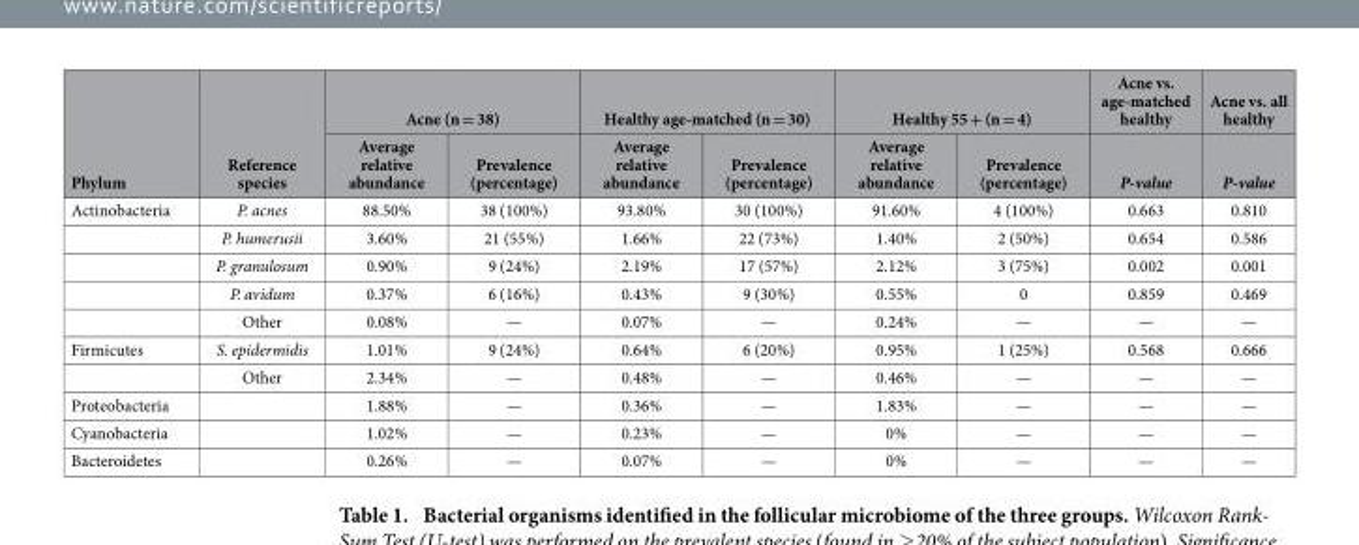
<table><thead><tr><td rowspan="2">Phylum</td><td rowspan="2">Reference species</td><td colspan="2">Acne (n = 38)</td><td colspan="2">Healthy age-matched (n = 30)</td><td colspan="2">Healthy 55 + (n = 4)</td><td rowspan="2">Acne vs. age-matched healthy P-value</td><td rowspan="2">Acne vs. all healthy P-value</td></tr><tr><td>Average relative abundance</td><td>Prevalence (percentage)</td><td>Average relative abundance</td><td>Prevalence (percentage)</td><td>Average relative abundance</td><td>Prevalence (percentage)</td></tr></thead><tbody><tr><td rowspan="5">Actinobacteria</td><td>P. acnes</td><td>88.50%</td><td>38 (100%)</td><td>93.80%</td><td>30 (100%)</td><td>91.60%</td><td>4 (100%)</td><td>0.663</td><td>0.810</td></tr><tr><td>P. humerusii</td><td>3.60%</td><td>21 (55%)</td><td>1.66%</td><td>22 (73%)</td><td>1.40%</td><td>2 (50%)</td><td>0.654</td><td>0.586</td></tr><tr><td>P. granulosum</td><td>0.90%</td><td>9 (24%)</td><td>2.19%</td><td>17 (57%)</td><td>2.12%</td><td>3 (75%)</td><td>0.002</td><td>0.001</td></tr><tr><td>P. avidum</td><td>0.37%</td><td>6 (16%)</td><td>0.43%</td><td>9 (30%)</td><td>0.55%</td><td>0</td><td>0.859</td><td>0.469</td></tr><tr><td>Other</td><td>0.08%</td><td>—</td><td>0.07%</td><td>—</td><td>0.24%</td><td>—</td><td>—</td><td>—</td></tr><tr><td rowspan="2">Firmicutes</td><td>S. epidermidis</td><td>1.01%</td><td>9 (24%)</td><td>0.64%</td><td>6 (20%)</td><td>0.95%</td><td>1 (25%)</td><td>0.568</td><td>0.666</td></tr><tr><td>Other</td><td>2.34%</td><td>—</td><td>0.48%</td><td>—</td><td>0.46%</td><td>—</td><td>—</td><td>—</td></tr><tr><td>Proteobacteria</td><td></td><td>1.88%</td><td>—</td><td>0.36%</td><td>—</td><td>1.83%</td><td>—</td><td>—</td><td>—</td></tr><tr><td>Cyanobacteria</td><td></td><td>1.02%</td><td>—</td><td>0.23%</td><td>—</td><td>0%</td><td>—</td><td>—</td><td>—</td></tr><tr><td>Bacteroidetes</td><td></td><td>0.26%</td><td>—</td><td>0.07%</td><td>—</td><td>0%</td><td>—</td><td>—</td><td>—</td></tr></tbody></table>